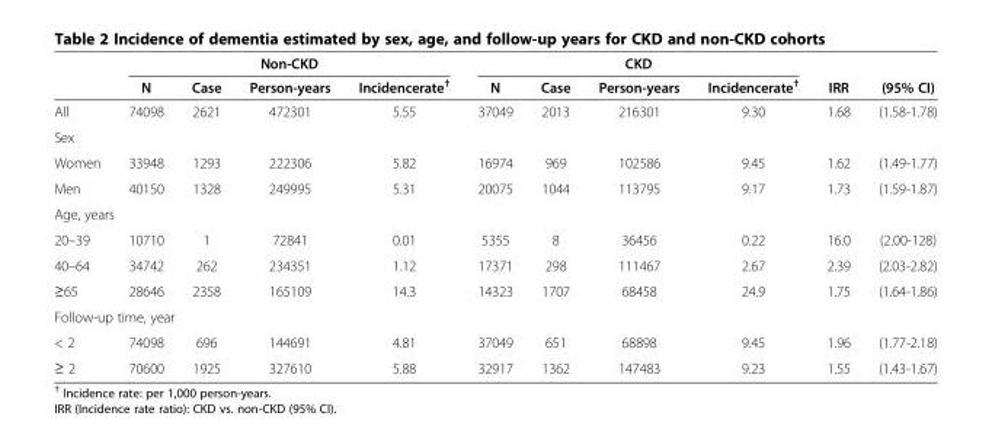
<table><thead><tr><td rowspan="2"></td><td colspan="4">Non-CKD</td><td colspan="4">CKD</td><td rowspan="2">IRR</td><td rowspan="2">(95% CI)</td></tr><tr><td>N</td><td>Case</td><td>Person-years</td><td>Incidencerate<sup>†</sup></td><td>N</td><td>Case</td><td>Person-years</td><td>Incidencerate<sup>†</sup></td></tr></thead><tbody><tr><td>All</td><td>74098</td><td>2621</td><td>472301</td><td>5.55</td><td>37049</td><td>2013</td><td>216301</td><td>9.30</td><td>1.68</td><td>(1.58-1.78)</td></tr><tr><td colspan="11">Sex</td></tr><tr><td>Women</td><td>33948</td><td>1293</td><td>222306</td><td>5.82</td><td>16974</td><td>969</td><td>102586</td><td>9.45</td><td>1.62</td><td>(1.49-1.77)</td></tr><tr><td>Men</td><td>40150</td><td>1328</td><td>249995</td><td>5.31</td><td>20075</td><td>1044</td><td>113795</td><td>9.17</td><td>1.73</td><td>(1.59-1.87)</td></tr><tr><td colspan="11">Age, years</td></tr><tr><td>20–39</td><td>10710</td><td>1</td><td>72841</td><td>0.01</td><td>5355</td><td>8</td><td>36456</td><td>0.22</td><td>16.0</td><td>(2.00-128)</td></tr><tr><td>40–64</td><td>34742</td><td>262</td><td>234351</td><td>1.12</td><td>17371</td><td>298</td><td>111467</td><td>2.67</td><td>2.39</td><td>(2.03-2.82)</td></tr><tr><td>≥65</td><td>28646</td><td>2358</td><td>165109</td><td>14.3</td><td>14323</td><td>1707</td><td>68458</td><td>24.9</td><td>1.75</td><td>(1.64-1.86)</td></tr><tr><td colspan="11">Follow-up time, year</td></tr><tr><td>&lt; 2</td><td>74098</td><td>696</td><td>144691</td><td>4.81</td><td>37049</td><td>651</td><td>68898</td><td>9.45</td><td>1.96</td><td>(1.77-2.18)</td></tr><tr><td>≥ 2</td><td>70600</td><td>1925</td><td>327610</td><td>5.88</td><td>32917</td><td>1362</td><td>147483</td><td>9.23</td><td>1.55</td><td>(1.43-1.67)</td></tr></tbody></table>